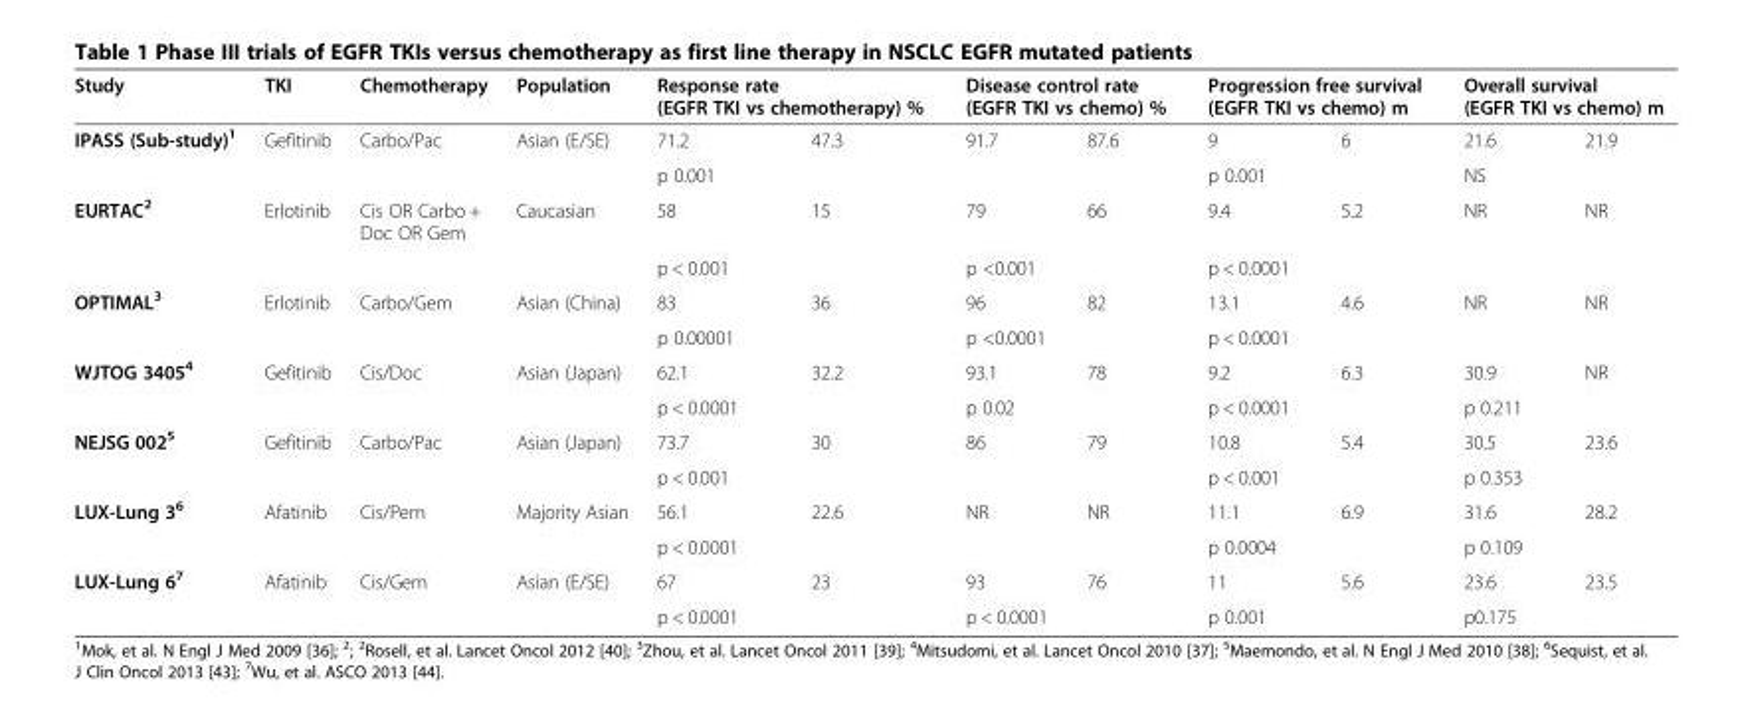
<table><thead><tr><td rowspan="2">Study IPASS (Sub-study)<sup>1</sup></td><td rowspan="2">TKI Gefitinib</td><td rowspan="2">Chemotherapy Carbo/Pac</td><td rowspan="2">Population Asian (E/SE)</td><td colspan="2">Response rate (EGFR TKI vs chemotherapy) %</td><td colspan="2">Disease control rate (EGFR TKI vs chemo) %</td><td colspan="2">Progression free survival (EGFR TKI vs chemo) m</td><td colspan="2">Overall survival (EGFR TKI vs chemo) m</td></tr><tr><td>71.2</td><td>47.3</td><td>91.7</td><td>87.6</td><td>9</td><td>6</td><td>21.6</td><td>21.9</td></tr></thead><tbody><tr><td></td><td></td><td></td><td></td><td colspan="2">p 0.001</td><td colspan="2"></td><td colspan="2">p 0.001</td><td colspan="2">NS</td></tr><tr><td rowspan="2">EURTAC<sup>2</sup></td><td>Erlotinib</td><td>Cis OR Carbo + Doc OR Gem</td><td>Caucasian</td><td>58</td><td>15</td><td>79</td><td>66</td><td>9.4</td><td>5.2</td><td>NR</td><td>NR</td></tr><tr><td></td><td></td><td></td><td colspan="2">p &lt; 0.001</td><td colspan="2">p &lt;0.001</td><td colspan="2">p &lt; 0.0001</td><td></td><td></td></tr><tr><td rowspan="2">OPTIMAL<sup>3</sup></td><td>Erlotinib</td><td>Carbo/Gem</td><td>Asian (China)</td><td>83</td><td>36</td><td>96</td><td>82</td><td>13.1</td><td>4.6</td><td>NR</td><td>NR</td></tr><tr><td></td><td></td><td></td><td colspan="2">p 0.00001</td><td colspan="2">p &lt;0.0001</td><td colspan="2">p &lt; 0.0001</td><td colspan="2"></td></tr><tr><td rowspan="2">WJTOG 3405<sup>4</sup></td><td>Gefitinib</td><td>Cis/Doc</td><td>Asian (Japan)</td><td>62.1</td><td>32.2</td><td>93.1</td><td>78</td><td>9.2</td><td>6.3</td><td>30.9</td><td>NR</td></tr><tr><td></td><td></td><td></td><td colspan="2">p &lt; 0.0001</td><td colspan="2">p 0.02</td><td colspan="2">p &lt; 0.0001</td><td colspan="2">p 0.211</td></tr><tr><td rowspan="2">NEJSG 002<sup>5</sup></td><td>Gefitinib</td><td>Carbo/Pac</td><td>Asian (Japan)</td><td>73.7</td><td>30</td><td>86</td><td>79</td><td>10.8</td><td>5.4</td><td>30.5</td><td>23.6</td></tr><tr><td></td><td></td><td></td><td colspan="2">p &lt; 0.001</td><td colspan="2"></td><td colspan="2">p &lt; 0.001</td><td colspan="2">p 0.353</td></tr><tr><td rowspan="2">LUX-Lung 3<sup>6</sup></td><td>Afatinib</td><td>Cis/Pem</td><td>Majority Asian</td><td>56.1</td><td>22.6</td><td>NR</td><td>NR</td><td>11.1</td><td>6.9</td><td>31.6</td><td>28.2</td></tr><tr><td></td><td></td><td></td><td colspan="2">p &lt; 0.0001</td><td></td><td></td><td colspan="2">p 0.0004</td><td colspan="2">p 0.109</td></tr><tr><td rowspan="2">LUX-Lung 6<sup>7</sup></td><td>Afatinib</td><td>Cis/Gem</td><td>Asian (E/SE)</td><td>67</td><td>23</td><td>93</td><td>76</td><td>11</td><td>5.6</td><td>23.6</td><td>23.5</td></tr><tr><td></td><td></td><td></td><td colspan="2">p &lt; 0.0001</td><td colspan="2">p &lt; 0.0001</td><td colspan="2">p 0.001</td><td colspan="2">p0.175</td></tr></tbody></table>